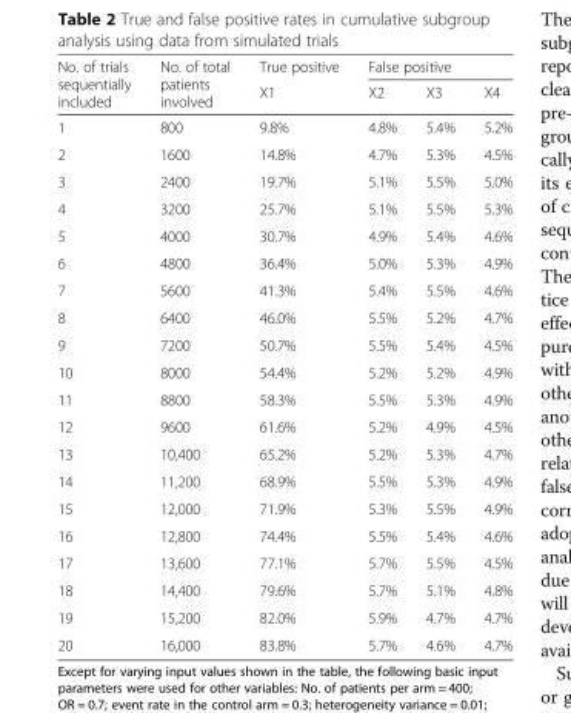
<table><thead><tr><td rowspan="2">No. of trials sequentially included</td><td rowspan="2">No. of total patients involved</td><td rowspan="2">True positive X1</td><td colspan="3">False positive</td></tr><tr><td>X2</td><td>X3</td><td>X4</td></tr></thead><tbody><tr><td>1</td><td>800</td><td>9.8%</td><td>4.8%</td><td>5.4%</td><td>5.2%</td></tr><tr><td>2</td><td>1600</td><td>14.8%</td><td>4.7%</td><td>5.3%</td><td>4.5%</td></tr><tr><td>3</td><td>2400</td><td>19.7%</td><td>5.1%</td><td>5.5%</td><td>5.0%</td></tr><tr><td>4</td><td>3200</td><td>25.7%</td><td>5.1%</td><td>5.5%</td><td>5.3%</td></tr><tr><td>5</td><td>4000</td><td>30.7%</td><td>4.9%</td><td>5.4%</td><td>4.6%</td></tr><tr><td>6</td><td>4800</td><td>36.4%</td><td>5.0%</td><td>5.3%</td><td>4.9%</td></tr><tr><td>7</td><td>5600</td><td>41.3%</td><td>5.4%</td><td>5.5%</td><td>4.6%</td></tr><tr><td>8</td><td>6400</td><td>46.0%</td><td>5.5%</td><td>5.2%</td><td>4.7%</td></tr><tr><td>9</td><td>7200</td><td>50.7%</td><td>5.5%</td><td>5.4%</td><td>4.5%</td></tr><tr><td>10</td><td>8000</td><td>54.4%</td><td>5.2%</td><td>5.2%</td><td>4.9%</td></tr><tr><td>11</td><td>8800</td><td>58.3%</td><td>5.5%</td><td>5.3%</td><td>4.9%</td></tr><tr><td>12</td><td>9600</td><td>61.6%</td><td>5.2%</td><td>4.9%</td><td>4.5%</td></tr><tr><td>13</td><td>10,400</td><td>65.2%</td><td>5.2%</td><td>5.3%</td><td>4.7%</td></tr><tr><td>14</td><td>11,200</td><td>68.9%</td><td>5.5%</td><td>5.3%</td><td>4.9%</td></tr><tr><td>15</td><td>12,000</td><td>71.9%</td><td>5.3%</td><td>5.5%</td><td>4.9%</td></tr><tr><td>16</td><td>12,800</td><td>74.4%</td><td>5.5%</td><td>5.4%</td><td>4.6%</td></tr><tr><td>17</td><td>13,600</td><td>77.1%</td><td>5.7%</td><td>5.5%</td><td>4.5%</td></tr><tr><td>18</td><td>14,400</td><td>79.6%</td><td>5.7%</td><td>5.1%</td><td>4.8%</td></tr><tr><td>19</td><td>15,200</td><td>82.0%</td><td>5.9%</td><td>4.7%</td><td>4.7%</td></tr><tr><td>20</td><td>16,000</td><td>83.8%</td><td>5.7%</td><td>4.6%</td><td>4.7%</td></tr></tbody></table>